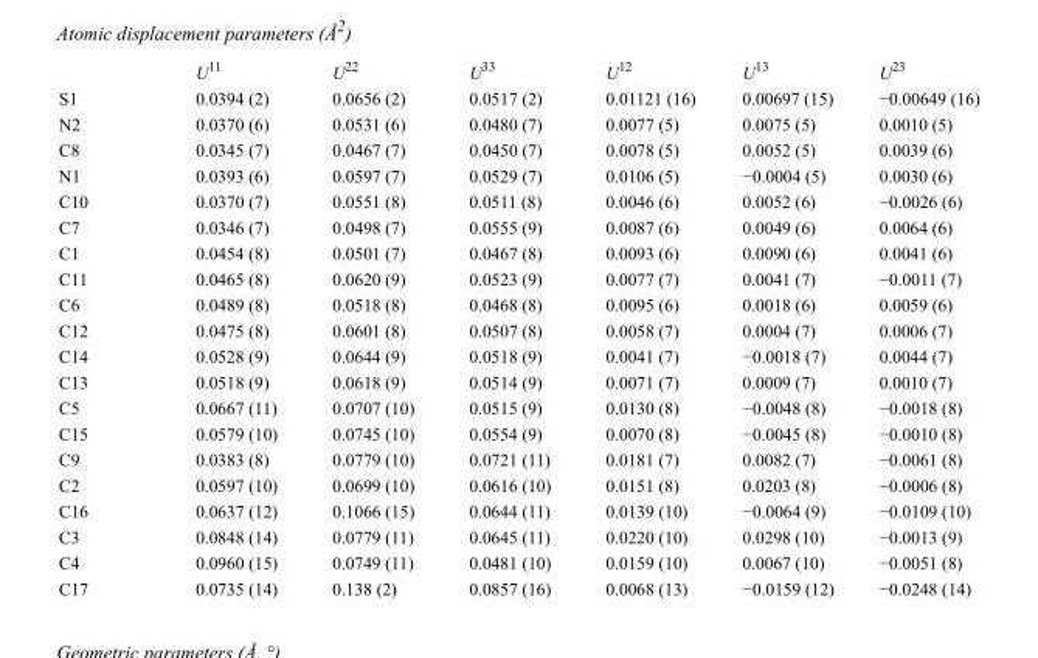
<table><thead><tr><td></td><td>U<sup>11</sup></td><td>U<sup>22</sup></td><td>U<sup>33</sup></td><td>U<sup>12</sup></td><td>U<sup>13</sup></td><td>U<sup>23</sup></td></tr></thead><tbody><tr><td>S1</td><td>0.0394 (2)</td><td>0.0656 (2)</td><td>0.0517 (2)</td><td>0.01121 (16)</td><td>0.00697 (15)</td><td>−0.00649 (16)</td></tr><tr><td>N2</td><td>0.0370 (6)</td><td>0.0531 (6)</td><td>0.0480 (7)</td><td>0.0077 (5)</td><td>0.0075 (5)</td><td>0.0010 (5)</td></tr><tr><td>C8</td><td>0.0345 (7)</td><td>0.0467 (7)</td><td>0.0450 (7)</td><td>0.0078 (5)</td><td>0.0052 (5)</td><td>0.0039 (6)</td></tr><tr><td>N1</td><td>0.0393 (6)</td><td>0.0597 (7)</td><td>0.0529 (7)</td><td>0.0106 (5)</td><td>−0.0004 (5)</td><td>0.0030 (6)</td></tr><tr><td>C10</td><td>0.0370 (7)</td><td>0.0551 (8)</td><td>0.0511 (8)</td><td>0.0046 (6)</td><td>0.0052 (6)</td><td>−0.0026 (6)</td></tr><tr><td>C7</td><td>0.0346 (7)</td><td>0.0498 (7)</td><td>0.0555 (9)</td><td>0.0087 (6)</td><td>0.0049 (6)</td><td>0.0064 (6)</td></tr><tr><td>C1</td><td>0.0454 (8)</td><td>0.0501 (7)</td><td>0.0467 (8)</td><td>0.0093 (6)</td><td>0.0090 (6)</td><td>0.0041 (6)</td></tr><tr><td>C11</td><td>0.0465 (8)</td><td>0.0620 (9)</td><td>0.0523 (9)</td><td>0.0077 (7)</td><td>0.0041 (7)</td><td>−0.0011 (7)</td></tr><tr><td>C6</td><td>0.0489 (8)</td><td>0.0518 (8)</td><td>0.0468 (8)</td><td>0.0095 (6)</td><td>0.0018 (6)</td><td>0.0059 (6)</td></tr><tr><td>C12</td><td>0.0475 (8)</td><td>0.0601 (8)</td><td>0.0507 (8)</td><td>0.0058 (7)</td><td>0.0004 (7)</td><td>0.0006 (7)</td></tr><tr><td>C14</td><td>0.0528 (9)</td><td>0.0644 (9)</td><td>0.0518 (9)</td><td>0.0041 (7)</td><td>−0.0018 (7)</td><td>0.0044 (7)</td></tr><tr><td>C13</td><td>0.0518 (9)</td><td>0.0618 (9)</td><td>0.0514 (9)</td><td>0.0071 (7)</td><td>0.0009 (7)</td><td>0.0010 (7)</td></tr><tr><td>C5</td><td>0.0667 (11)</td><td>0.0707 (10)</td><td>0.0515 (9)</td><td>0.0130 (8)</td><td>−0.0048 (8)</td><td>−0.0018 (8)</td></tr><tr><td>C15</td><td>0.0579 (10)</td><td>0.0745 (10)</td><td>0.0554 (9)</td><td>0.0070 (8)</td><td>−0.0045 (8)</td><td>−0.0010 (8)</td></tr><tr><td>C9</td><td>0.0383 (8)</td><td>0.0779 (10)</td><td>0.0721 (11)</td><td>0.0181 (7)</td><td>0.0082 (7)</td><td>−0.0061 (8)</td></tr><tr><td>C2</td><td>0.0597 (10)</td><td>0.0699 (10)</td><td>0.0616 (10)</td><td>0.0151 (8)</td><td>0.0203 (8)</td><td>−0.0006 (8)</td></tr><tr><td>C16</td><td>0.0637 (12)</td><td>0.1066 (15)</td><td>0.0644 (11)</td><td>0.0139 (10)</td><td>−0.0064 (9)</td><td>−0.0109 (10)</td></tr><tr><td>C3</td><td>0.0848 (14)</td><td>0.0779 (11)</td><td>0.0645 (11)</td><td>0.0220 (10)</td><td>0.0298 (10)</td><td>−0.0013 (9)</td></tr><tr><td>C4</td><td>0.0960 (15)</td><td>0.0749 (11)</td><td>0.0481 (10)</td><td>0.0159 (10)</td><td>0.0067 (10)</td><td>−0.0051 (8)</td></tr><tr><td>C17</td><td>0.0735 (14)</td><td>0.138 (2)</td><td>0.0857 (16)</td><td>0.0068 (13)</td><td>−0.0159 (12)</td><td>−0.0248 (14)</td></tr></tbody></table>